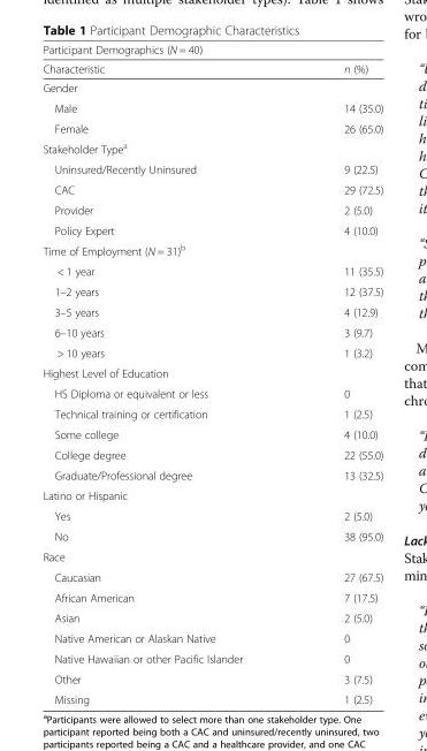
<table><thead><tr><td colspan="2">Participant Demographics (N = 40)</td></tr><tr><td>Characteristic</td><td>n (%)</td></tr></thead><tbody><tr><td colspan="2">Gender</td></tr><tr><td>Male</td><td>14 (35.0)</td></tr><tr><td>Female</td><td>26 (65.0)</td></tr><tr><td colspan="2">Stakeholder Type<sup>a</sup></td></tr><tr><td>Uninsured/Recently Uninsured</td><td>9 (22.5)</td></tr><tr><td>CAC</td><td>29 (72.5)</td></tr><tr><td>Provider</td><td>2 (5.0)</td></tr><tr><td>Policy Expert</td><td>4 (10.0)</td></tr><tr><td colspan="2">Time of Employment (N = 31)<sup>b</sup></td></tr><tr><td>&lt; 1 year</td><td>11 (35.5)</td></tr><tr><td>1–2 years</td><td>12 (37.5)</td></tr><tr><td>3–5 years</td><td>4 (12.9)</td></tr><tr><td>6–10 years</td><td>3 (9.7)</td></tr><tr><td>&gt; 10 years</td><td>1 (3.2)</td></tr><tr><td colspan="2">Highest Level of Education</td></tr><tr><td>HS Diploma or equivalent or less</td><td>0</td></tr><tr><td>Technical training or certification</td><td>1 (2.5)</td></tr><tr><td>Some college</td><td>4 (10.0)</td></tr><tr><td>College degree</td><td>22 (55.0)</td></tr><tr><td>Graduate/Professional degree</td><td>13 (32.5)</td></tr><tr><td colspan="2">Latino or Hispanic</td></tr><tr><td>Yes</td><td>2 (5.0)</td></tr><tr><td>No</td><td>38 (95.0)</td></tr><tr><td colspan="2">Race</td></tr><tr><td>Caucasian</td><td>27 (67.5)</td></tr><tr><td>African American</td><td>7 (17.5)</td></tr><tr><td>Asian</td><td>2 (5.0)</td></tr><tr><td>Native American or Alaskan Native</td><td>0</td></tr><tr><td>Native Hawaiian or other Pacific Islander</td><td>0</td></tr><tr><td>Other</td><td>3 (7.5)</td></tr><tr><td>Missing</td><td>1 (2.5)</td></tr></tbody></table>